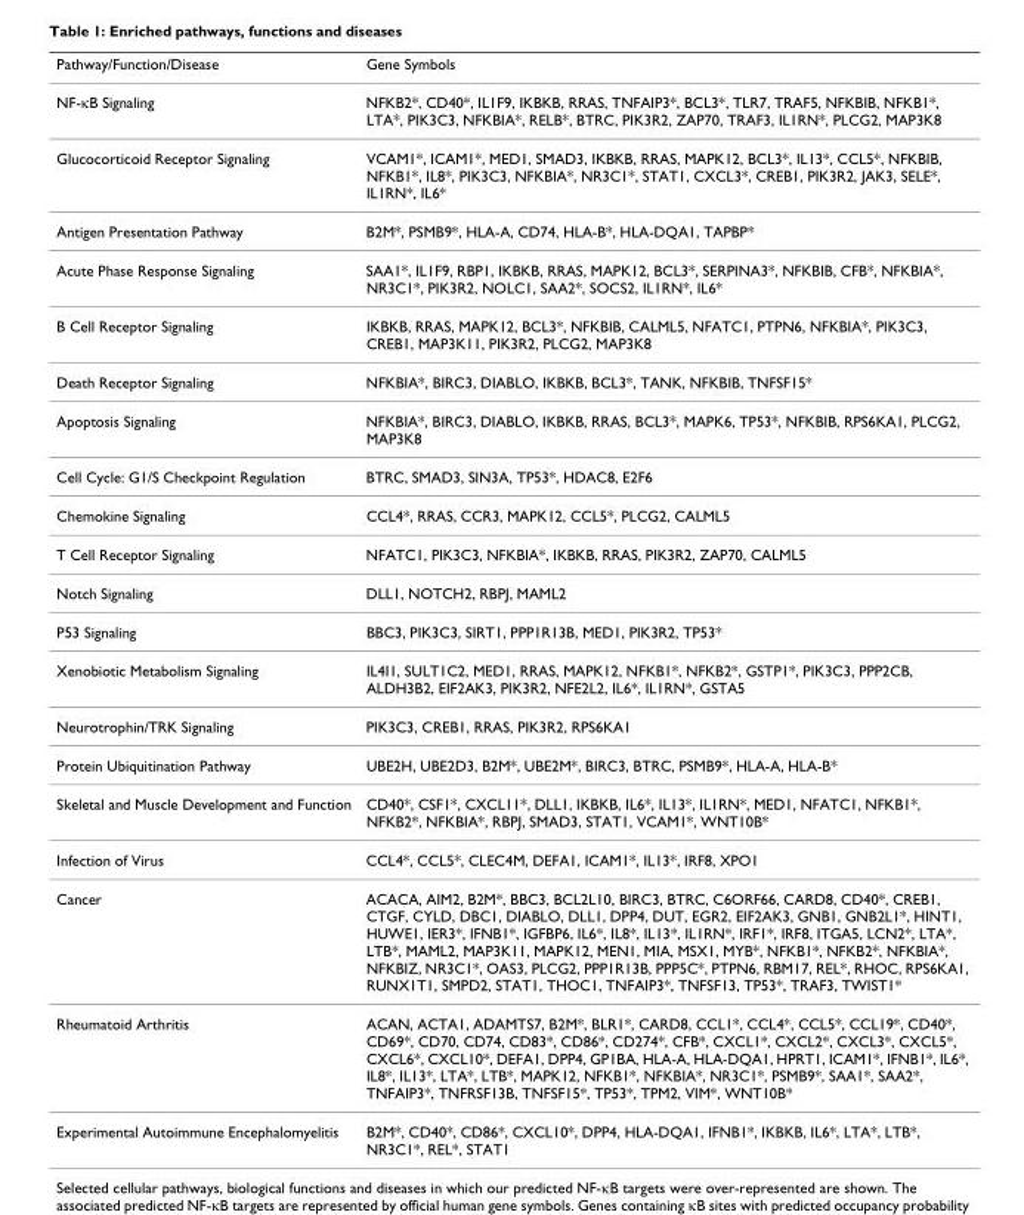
<table><thead><tr><td>Pathway/Function/Disease</td><td>Gene Symbols</td></tr></thead><tbody><tr><td>NF-κB Signaling</td><td>NFKB2*, CD40*, IL1F9, IKBKB, RRAS, TNFAIP3*, BCL3*, TLR7, TRAF5, NFKBIB, NFKB1*, LTA*, PIK3C3, NFKBIA*, RELB*, BTRC, PIK3R2, ZAP70, TRAF3, IL1RN*, PLCG2, MAP3K8</td></tr><tr><td>Glucocorticoid Receptor Signaling</td><td>VCAM1*, ICAM1*, MED1, SMAD3, IKBKB, RRAS, MAPK12, BCL3*, IL13*, CCL5*, NFKBIB, NFKB1*, IL8*, PIK3C3, NFKBIA*, NR3C1*, STAT1, CXCL3*, CREB1, PIK3R2, JAK3, SELE*, IL1RN*, IL6*</td></tr><tr><td>Antigen Presentation Pathway</td><td>B2M*, PSMB9*, HLA-A, CD74, HLA-B*, HLA-DQA1, TAPBP*</td></tr><tr><td>Acute Phase Response Signaling</td><td>SAA1*, IL1F9, RBP1, IKBKB, RRAS, MAPK12, BCL3*, SERPINA3*, NFKBIB, CFB*, NFKBIA*, NR3C1*, PIK3R2, NOLC1, SAA2*, SOCS2, IL1RN*, IL6*</td></tr><tr><td>B Cell Receptor Signaling</td><td>IKBKB, RRAS, MAPK12, BCL3*, NFKBIB, CALML5, NFATC1, PTPN6, NFKBIA*, PIK3C3, CREB1, MAP3K11, PIK3R2, PLCG2, MAP3K8</td></tr><tr><td>Death Receptor Signaling</td><td>NFKBIA*, BIRC3, DIABLO, IKBKB, BCL3*, TANK, NFKBIB, TNFSF15*</td></tr><tr><td>Apoptosis Signaling</td><td>NFKBIA*, BIRC3, DIABLO, IKBKB, RRAS, BCL3*, MAPK6, TP53*, NFKBIB, RPS6KA1, PLCG2, MAP3K8</td></tr><tr><td>Cell Cycle: G1/S Checkpoint Regulation</td><td>BTRC, SMAD3, SIN3A, TP53*, HDAC8, E2F6</td></tr><tr><td>Chemokine Signaling</td><td>CCL4*, RRAS, CCR3, MAPK12, CCL5*, PLCG2, CALML5</td></tr><tr><td>T Cell Receptor Signaling</td><td>NFATC1, PIK3C3, NFKBIA*, IKBKB, RRAS, PIK3R2, ZAP70, CALML5</td></tr><tr><td>Notch Signaling</td><td>DLL1, NOTCH2, RBPJ, MAML2</td></tr><tr><td>P53 Signaling</td><td>BBC3, PIK3C3, SIRT1, PPP1R13B, MED1, PIK3R2, TP53*</td></tr><tr><td>Xenobiotic Metabolism Signaling</td><td>IL4I1, SULT1C2, MED1, RRAS, MAPK12, NFKB1*, NFKB2*, GSTP1*, PIK3C3, PPP2CB, ALDH3B2, EIF2AK3, PIK3R2, NFE2L2, IL6*, IL1RN*, GSTA5</td></tr><tr><td>Neurotrophin/TRK Signaling</td><td>PIK3C3, CREB1, RRAS, PIK3R2, RPS6KA1</td></tr><tr><td>Protein Ubiquitination Pathway</td><td>UBE2H, UBE2D3, B2M*, UBE2M*, BIRC3, BTRC, PSMB9*, HLA-A, HLA-B*</td></tr><tr><td>Skeletal and Muscle Development and Function</td><td>CD40*, CSF1*, CXCL11*, DLL1, IKBKB, IL6*, IL13*, IL1RN*, MED1, NFATC1, NFKB1*, NFKB2*, NFKBIA*, RBPJ, SMAD3, STAT1, VCAM1*, WNT10B*</td></tr><tr><td>Infection of Virus</td><td>CCL4*, CCL5*, CLEC4M, DEFA1, ICAM1*, IL13*, IRF8, XPO1</td></tr><tr><td>Cancer</td><td>ACACA, AIM2, B2M*, BBC3, BCL2L10, BIRC3, BTRC, C6ORF66, CARD8, CD40*, CREB1, CTGF, CYLD, DBC1, DIABLO, DLL1, DPP4, DUT, EGR2, EIF2AK3, GNB1, GNB2L1*, HINT1, HUWE1, IER3*, IFNB1*, IGFBP6, IL6*, IL8*, IL13*, IL1RN*, IRF1*, IRF8, ITGA5, LCN2*, LTA*, LTB*, MAML2, MAP3K11, MAPK12, MEN1, MIA, MSX1, MYB*, NFKB1*, NFKB2*, NFKBIA*, NFKBIZ, NR3C1*, OAS3, PLCG2, PPP1R13B, PPP5C*, PTPN6, RBM17, REL*, RHOC, RPS6KA1, RUNX1T1, SMPD2, STAT1, THOC1, TNFAIP3*, TNFSF13, TP53*, TRAF3, TWIST1*</td></tr><tr><td>Rheumatoid Arthritis</td><td>ACAN, ACTA1, ADAMTS7, B2M*, BLR1*, CARD8, CCL1*, CCL4*, CCL5*, CCL19*, CD40*, CD69*, CD70, CD74, CD83*, CD86*, CD274*, CFB*, CXCL1*, CXCL2*, CXCL3*, CXCL5*, CXCL6*, CXCL10*, DEFA1, DPP4, GP1BA, HLA-A, HLA-DQA1, HPRT1, ICAM1*, IFNB1*, IL6*, IL8*, IL13*, LTA*, LTB*, MAPK12, NFKB1*, NFKBIA*, NR3C1*, PSMB9*, SAA1*, SAA2*, TNFAIP3*, TNFRSF13B, TNFSF15*, TP53*, TPM2, VIM*, WNT10B*</td></tr><tr><td>Experimental Autoimmune Encephalomyelitis</td><td>B2M*, CD40*, CD86*, CXCL10*, DPP4, HLA-DQA1, IFNB1*, IKBKB, IL6*, LTA*, LTB*, NR3C1*, REL*, STAT1</td></tr></tbody></table>